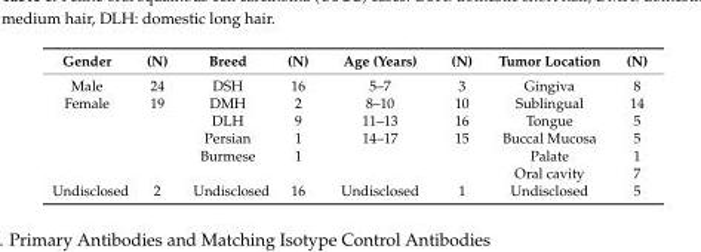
<table><thead><tr><td>Gender</td><td>(N)</td><td>Breed</td><td>(N)</td><td>Age (Years)</td><td>(N)</td><td>Tumor Location</td><td>(N)</td></tr></thead><tbody><tr><td>Male</td><td>24</td><td>DSH</td><td>16</td><td>5–7</td><td>3</td><td>Gingiva</td><td>8</td></tr><tr><td rowspan="5">Female</td><td>19</td><td>DMH</td><td>2</td><td>8–10</td><td>10</td><td>Sublingual</td><td>14</td></tr><tr><td></td><td>DLH</td><td>9</td><td>11–13</td><td>16</td><td>Tongue</td><td>5</td></tr><tr><td></td><td>Persian</td><td>1</td><td>14–17</td><td>15</td><td>Buccal Mucosa</td><td>5</td></tr><tr><td></td><td>Burmese</td><td>1</td><td></td><td></td><td>Palate</td><td>1</td></tr><tr><td></td><td></td><td></td><td></td><td></td><td>Oral cavity</td><td>7</td></tr><tr><td>Undisclosed</td><td>2</td><td>Undisclosed</td><td>16</td><td>Undisclosed</td><td>1</td><td>Undisclosed</td><td>5</td></tr></tbody></table>